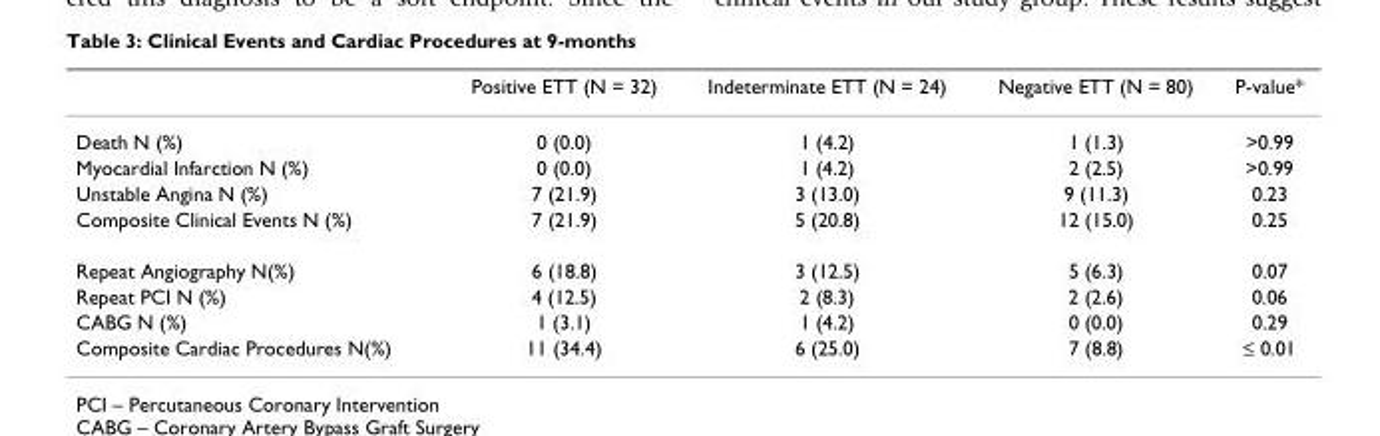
<table><thead><tr><td></td><td>Positive ETT (N = 32)</td><td>Indeterminate ETT (N = 24)</td><td>Negative ETT (N = 80)</td><td>P-value*</td></tr></thead><tbody><tr><td>Death N (%)</td><td>0 (0.0)</td><td>1 (4.2)</td><td>1 (1.3)</td><td>&gt;0.99</td></tr><tr><td>Myocardial Infarction N (%)</td><td>0 (0.0)</td><td>1 (4.2)</td><td>2 (2.5)</td><td>&gt;0.99</td></tr><tr><td>Unstable Angina N (%)</td><td>7 (21.9)</td><td>3 (13.0)</td><td>9 (11.3)</td><td>0.23</td></tr><tr><td>Composite Clinical Events N (%)</td><td>7 (21.9)</td><td>5 (20.8)</td><td>12 (15.0)</td><td>0.25</td></tr><tr><td>Repeat Angiography N(%)</td><td>6 (18.8)</td><td>3 (12.5)</td><td>5 (6.3)</td><td>0.07</td></tr><tr><td>Repeat PCI N (%)</td><td>4 (12.5)</td><td>2 (8.3)</td><td>2 (2.6)</td><td>0.06</td></tr><tr><td>CABG N (%)</td><td>1 (3.1)</td><td>1 (4.2)</td><td>0 (0.0)</td><td>0.29</td></tr><tr><td>Composite Cardiac Procedures N(%)</td><td>11 (34.4)</td><td>6 (25.0)</td><td>7 (8.8)</td><td>≤ 0.01</td></tr></tbody></table>